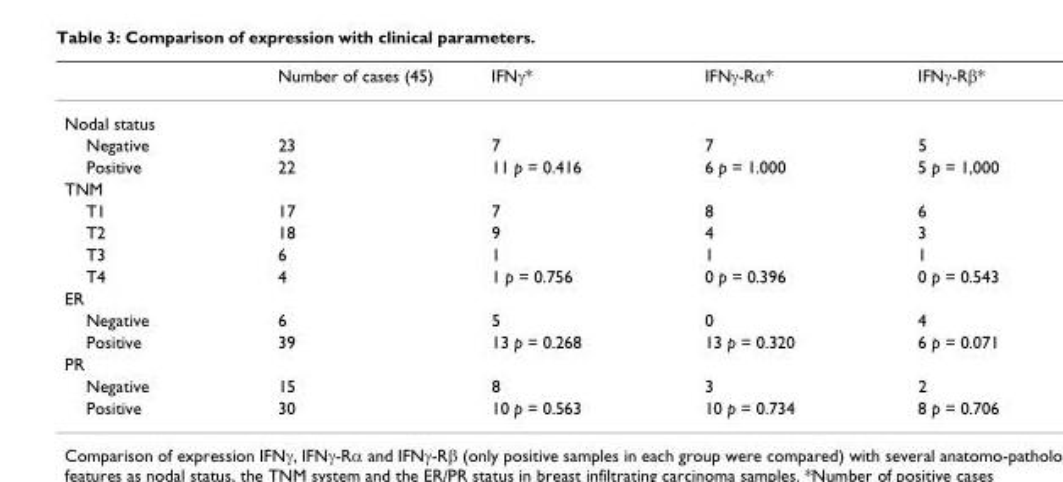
<table><thead><tr><td></td><td>Number of cases (45)</td><td>IFNγ*</td><td>IFNγ-Rα*</td><td>IFNγ-Rβ*</td></tr></thead><tbody><tr><td colspan="5">Nodal status</td></tr><tr><td>Negative</td><td>23</td><td>7</td><td>7</td><td>5</td></tr><tr><td>Positive</td><td>22</td><td>11 p = 0.416</td><td>6 p = 1.000</td><td>5 p = 1,000</td></tr><tr><td colspan="5">TNM</td></tr><tr><td>T1</td><td>17</td><td>7</td><td>8</td><td>6</td></tr><tr><td>T2</td><td>18</td><td>9</td><td>4</td><td>3</td></tr><tr><td>T3</td><td>6</td><td>1</td><td>1</td><td>1</td></tr><tr><td>T4</td><td>4</td><td>1 p = 0.756</td><td>0 p = 0.396</td><td>0 p = 0.543</td></tr><tr><td colspan="5">ER</td></tr><tr><td>Negative</td><td>6</td><td>5</td><td>0</td><td>4</td></tr><tr><td>Positive</td><td>39</td><td>13 p = 0.268</td><td>13 p = 0.320</td><td>6 p = 0.071</td></tr><tr><td colspan="5">PR</td></tr><tr><td>Negative</td><td>15</td><td>8</td><td>3</td><td>2</td></tr><tr><td>Positive</td><td>30</td><td>10 p = 0.563</td><td>10 p = 0.734</td><td>8 p = 0.706</td></tr></tbody></table>